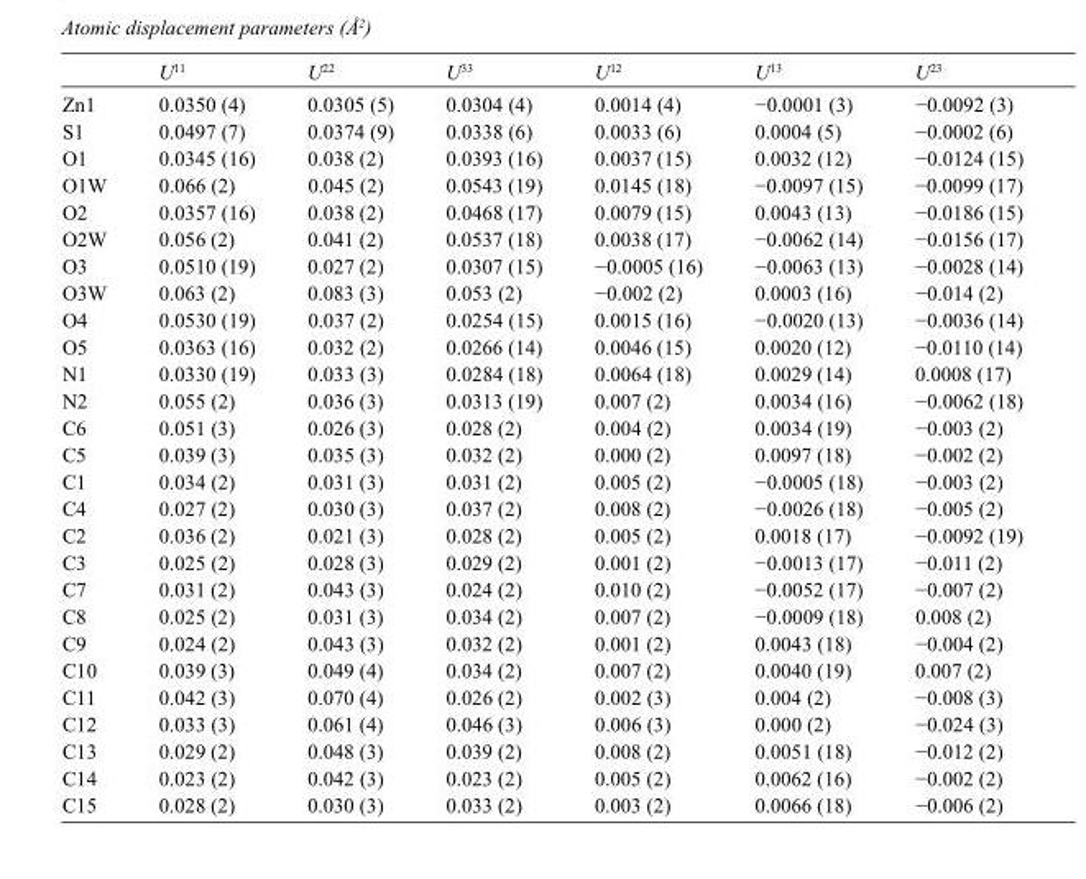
<table><thead><tr><td></td><td>U<sup>11</sup></td><td>U<sup>22</sup></td><td>U<sup>33</sup></td><td>U<sup>12</sup></td><td>U<sup>13</sup></td><td>U<sup>23</sup></td></tr></thead><tbody><tr><td>Zn1</td><td>0.0350 (4)</td><td>0.0305 (5)</td><td>0.0304 (4)</td><td>0.0014 (4)</td><td>−0.0001 (3)</td><td>−0.0092 (3)</td></tr><tr><td>S1</td><td>0.0497 (7)</td><td>0.0374 (9)</td><td>0.0338 (6)</td><td>0.0033 (6)</td><td>0.0004 (5)</td><td>−0.0002 (6)</td></tr><tr><td>O1</td><td>0.0345 (16)</td><td>0.038 (2)</td><td>0.0393 (16)</td><td>0.0037 (15)</td><td>0.0032 (12)</td><td>−0.0124 (15)</td></tr><tr><td>O1W</td><td>0.066 (2)</td><td>0.045 (2)</td><td>0.0543 (19)</td><td>0.0145 (18)</td><td>−0.0097 (15)</td><td>−0.0099 (17)</td></tr><tr><td>O2</td><td>0.0357 (16)</td><td>0.038 (2)</td><td>0.0468 (17)</td><td>0.0079 (15)</td><td>0.0043 (13)</td><td>−0.0186 (15)</td></tr><tr><td>O2W</td><td>0.056 (2)</td><td>0.041 (2)</td><td>0.0537 (18)</td><td>0.0038 (17)</td><td>−0.0062 (14)</td><td>−0.0156 (17)</td></tr><tr><td>O3</td><td>0.0510 (19)</td><td>0.027 (2)</td><td>0.0307 (15)</td><td>−0.0005 (16)</td><td>−0.0063 (13)</td><td>−0.0028 (14)</td></tr><tr><td>O3W</td><td>0.063 (2)</td><td>0.083 (3)</td><td>0.053 (2)</td><td>−0.002 (2)</td><td>0.0003 (16)</td><td>−0.014 (2)</td></tr><tr><td>O4</td><td>0.0530 (19)</td><td>0.037 (2)</td><td>0.0254 (15)</td><td>0.0015 (16)</td><td>−0.0020 (13)</td><td>−0.0036 (14)</td></tr><tr><td>O5</td><td>0.0363 (16)</td><td>0.032 (2)</td><td>0.0266 (14)</td><td>0.0046 (15)</td><td>0.0020 (12)</td><td>−0.0110 (14)</td></tr><tr><td>N1</td><td>0.0330 (19)</td><td>0.033 (3)</td><td>0.0284 (18)</td><td>0.0064 (18)</td><td>0.0029 (14)</td><td>0.0008 (17)</td></tr><tr><td>N2</td><td>0.055 (2)</td><td>0.036 (3)</td><td>0.0313 (19)</td><td>0.007 (2)</td><td>0.0034 (16)</td><td>−0.0062 (18)</td></tr><tr><td>C6</td><td>0.051 (3)</td><td>0.026 (3)</td><td>0.028 (2)</td><td>0.004 (2)</td><td>0.0034 (19)</td><td>−0.003 (2)</td></tr><tr><td>C5</td><td>0.039 (3)</td><td>0.035 (3)</td><td>0.032 (2)</td><td>0.000 (2)</td><td>0.0097 (18)</td><td>−0.002 (2)</td></tr><tr><td>C1</td><td>0.034 (2)</td><td>0.031 (3)</td><td>0.031 (2)</td><td>0.005 (2)</td><td>−0.0005 (18)</td><td>−0.003 (2)</td></tr><tr><td>C4</td><td>0.027 (2)</td><td>0.030 (3)</td><td>0.037 (2)</td><td>0.008 (2)</td><td>−0.0026 (18)</td><td>−0.005 (2)</td></tr><tr><td>C2</td><td>0.036 (2)</td><td>0.021 (3)</td><td>0.028 (2)</td><td>0.005 (2)</td><td>0.0018 (17)</td><td>−0.0092 (19)</td></tr><tr><td>C3</td><td>0.025 (2)</td><td>0.028 (3)</td><td>0.029 (2)</td><td>0.001 (2)</td><td>−0.0013 (17)</td><td>−0.011 (2)</td></tr><tr><td>C7</td><td>0.031 (2)</td><td>0.043 (3)</td><td>0.024 (2)</td><td>0.010 (2)</td><td>−0.0052 (17)</td><td>−0.007 (2)</td></tr><tr><td>C8</td><td>0.025 (2)</td><td>0.031 (3)</td><td>0.034 (2)</td><td>0.007 (2)</td><td>−0.0009 (18)</td><td>0.008 (2)</td></tr><tr><td>C9</td><td>0.024 (2)</td><td>0.043 (3)</td><td>0.032 (2)</td><td>0.001 (2)</td><td>0.0043 (18)</td><td>−0.004 (2)</td></tr><tr><td>C10</td><td>0.039 (3)</td><td>0.049 (4)</td><td>0.034 (2)</td><td>0.007 (2)</td><td>0.0040 (19)</td><td>0.007 (2)</td></tr><tr><td>C11</td><td>0.042 (3)</td><td>0.070 (4)</td><td>0.026 (2)</td><td>0.002 (3)</td><td>0.004 (2)</td><td>−0.008 (3)</td></tr><tr><td>C12</td><td>0.033 (3)</td><td>0.061 (4)</td><td>0.046 (3)</td><td>0.006 (3)</td><td>0.000 (2)</td><td>−0.024 (3)</td></tr><tr><td>C13</td><td>0.029 (2)</td><td>0.048 (3)</td><td>0.039 (2)</td><td>0.008 (2)</td><td>0.0051 (18)</td><td>−0.012 (2)</td></tr><tr><td>C14</td><td>0.023 (2)</td><td>0.042 (3)</td><td>0.023 (2)</td><td>0.005 (2)</td><td>0.0062 (16)</td><td>−0.002 (2)</td></tr><tr><td>C15</td><td>0.028 (2)</td><td>0.030 (3)</td><td>0.033 (2)</td><td>0.003 (2)</td><td>0.0066 (18)</td><td>−0.006 (2)</td></tr></tbody></table>